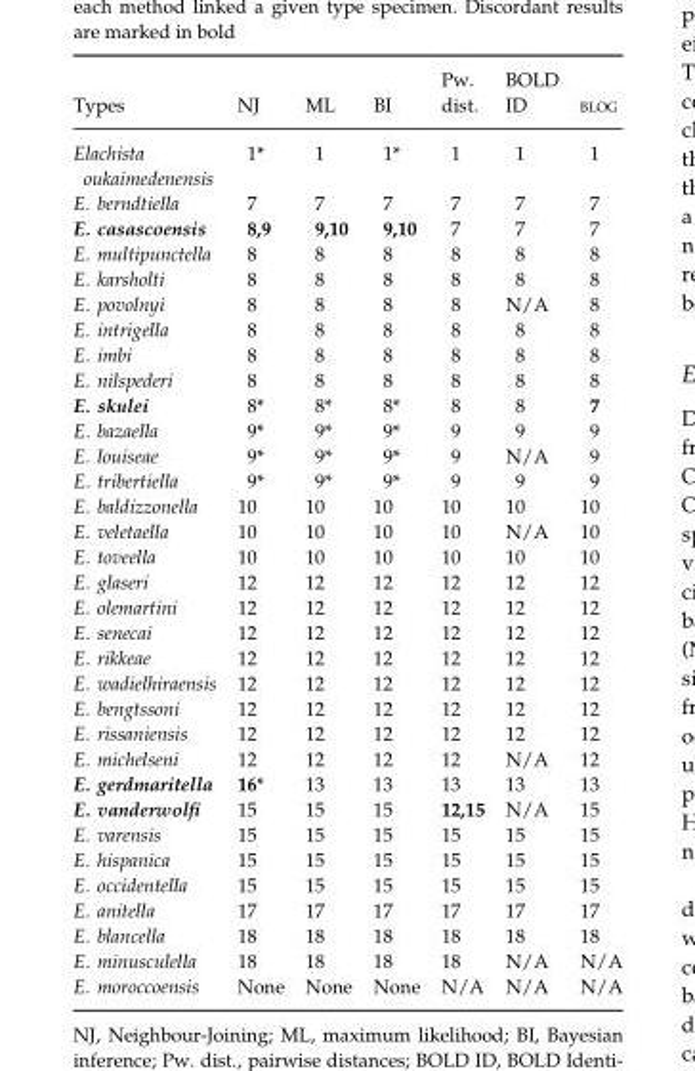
<table><thead><tr><td>Types</td><td>NJ</td><td>ML</td><td>BI</td><td>Pw. dist.</td><td>BOLD ID</td><td>BLOG</td></tr></thead><tbody><tr><td>Elachista oukaimedenensis</td><td>1*</td><td>1</td><td>1*</td><td>1</td><td>1</td><td>1</td></tr><tr><td>E. berndtiella</td><td>7</td><td>7</td><td>7</td><td>7</td><td>7</td><td>7</td></tr><tr><td>E. casascoensis</td><td>8,9</td><td>9,10</td><td>9,10</td><td>7</td><td>7</td><td>7</td></tr><tr><td>E. multipunctella</td><td>8</td><td>8</td><td>8</td><td>8</td><td>8</td><td>8</td></tr><tr><td>E. karsholti</td><td>8</td><td>8</td><td>8</td><td>8</td><td>8</td><td>8</td></tr><tr><td>E. povolnyi</td><td>8</td><td>8</td><td>8</td><td>8</td><td>N/A</td><td>8</td></tr><tr><td>E. intrigella</td><td>8</td><td>8</td><td>8</td><td>8</td><td>8</td><td>8</td></tr><tr><td>E. imbi</td><td>8</td><td>8</td><td>8</td><td>8</td><td>8</td><td>8</td></tr><tr><td>E. nilspederi</td><td>8</td><td>8</td><td>8</td><td>8</td><td>8</td><td>8</td></tr><tr><td>E. skulei</td><td>8*</td><td>8*</td><td>8*</td><td>8</td><td>8</td><td>7</td></tr><tr><td>E. bazaella</td><td>9*</td><td>9*</td><td>9*</td><td>9</td><td>9</td><td>9</td></tr><tr><td>E. louiseae</td><td>9*</td><td>9*</td><td>9*</td><td>9</td><td>N/A</td><td>9</td></tr><tr><td>E. tribertiella</td><td>9*</td><td>9*</td><td>9*</td><td>9</td><td>9</td><td>9</td></tr><tr><td>E. baldizzonella</td><td>10</td><td>10</td><td>10</td><td>10</td><td>10</td><td>10</td></tr><tr><td>E. veletaella</td><td>10</td><td>10</td><td>10</td><td>10</td><td>N/A</td><td>10</td></tr><tr><td>E. toveella</td><td>10</td><td>10</td><td>10</td><td>10</td><td>10</td><td>10</td></tr><tr><td>E. glaseri</td><td>12</td><td>12</td><td>12</td><td>12</td><td>12</td><td>12</td></tr><tr><td>E. olemartini</td><td>12</td><td>12</td><td>12</td><td>12</td><td>12</td><td>12</td></tr><tr><td>E. senecai</td><td>12</td><td>12</td><td>12</td><td>12</td><td>12</td><td>12</td></tr><tr><td>E. rikkeae</td><td>12</td><td>12</td><td>12</td><td>12</td><td>12</td><td>12</td></tr><tr><td>E. wadielhiraensis</td><td>12</td><td>12</td><td>12</td><td>12</td><td>12</td><td>12</td></tr><tr><td>E. bengtssoni</td><td>12</td><td>12</td><td>12</td><td>12</td><td>12</td><td>12</td></tr><tr><td>E. rissaniensis</td><td>12</td><td>12</td><td>12</td><td>12</td><td>12</td><td>12</td></tr><tr><td>E. michelseni</td><td>12</td><td>12</td><td>12</td><td>12</td><td>N/A</td><td>12</td></tr><tr><td>E. gerdmaritella</td><td>16*</td><td>13</td><td>13</td><td>13</td><td>13</td><td>13</td></tr><tr><td>E. vanderwolfi</td><td>15</td><td>15</td><td>15</td><td>12,15</td><td>N/A</td><td>15</td></tr><tr><td>E. varensis</td><td>15</td><td>15</td><td>15</td><td>15</td><td>15</td><td>15</td></tr><tr><td>E. hispanica</td><td>15</td><td>15</td><td>15</td><td>15</td><td>15</td><td>15</td></tr><tr><td>E. occidentella</td><td>15</td><td>15</td><td>15</td><td>15</td><td>15</td><td>15</td></tr><tr><td>E. anitella</td><td>17</td><td>17</td><td>17</td><td>17</td><td>17</td><td>17</td></tr><tr><td>E. blancella</td><td>18</td><td>18</td><td>18</td><td>18</td><td>18</td><td>18</td></tr><tr><td>E. minusculella</td><td>18</td><td>18</td><td>18</td><td>18</td><td>N/A</td><td>N/A</td></tr><tr><td>E. moroccoensis</td><td>None</td><td>None</td><td>None</td><td>N/A</td><td>N/A</td><td>N/A</td></tr></tbody></table>